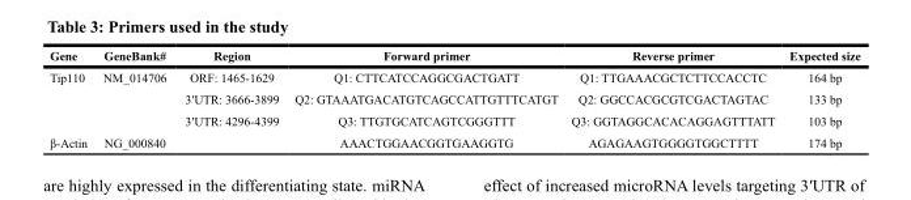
<table><thead><tr><td>Gene</td><td>GeneBank#</td><td>Region</td><td>Forward primer</td><td>Reverse primer</td><td>Expected size</td></tr></thead><tbody><tr><td rowspan="3">Tip110</td><td>NM_014706</td><td>ORF: 1465-1629</td><td>Q1: CTTCATCCAGGCGACTGATT</td><td>Q1: TTGAAACGCTCTTCCACCTC</td><td>164 bp</td></tr><tr><td></td><td>3′UTR: 3666-3899</td><td>Q2: GTAAATGACATGTCAGCCATTGTTTCATGT</td><td>Q2: GGCCACGCGTCGACTAGTAC</td><td>133 bp</td></tr><tr><td></td><td>3′UTR: 4296-4399</td><td>Q3: TTGTGCATCAGTCGGGTTT</td><td>Q3: GGTAGGCACACAGGAGTTTATT</td><td>103 bp</td></tr><tr><td>β-Actin</td><td>NG_000840</td><td></td><td>AAACTGGAACGGTGAAGGTG</td><td>AGAGAAGTGGGGTGGCTTTT</td><td>174 bp</td></tr></tbody></table>